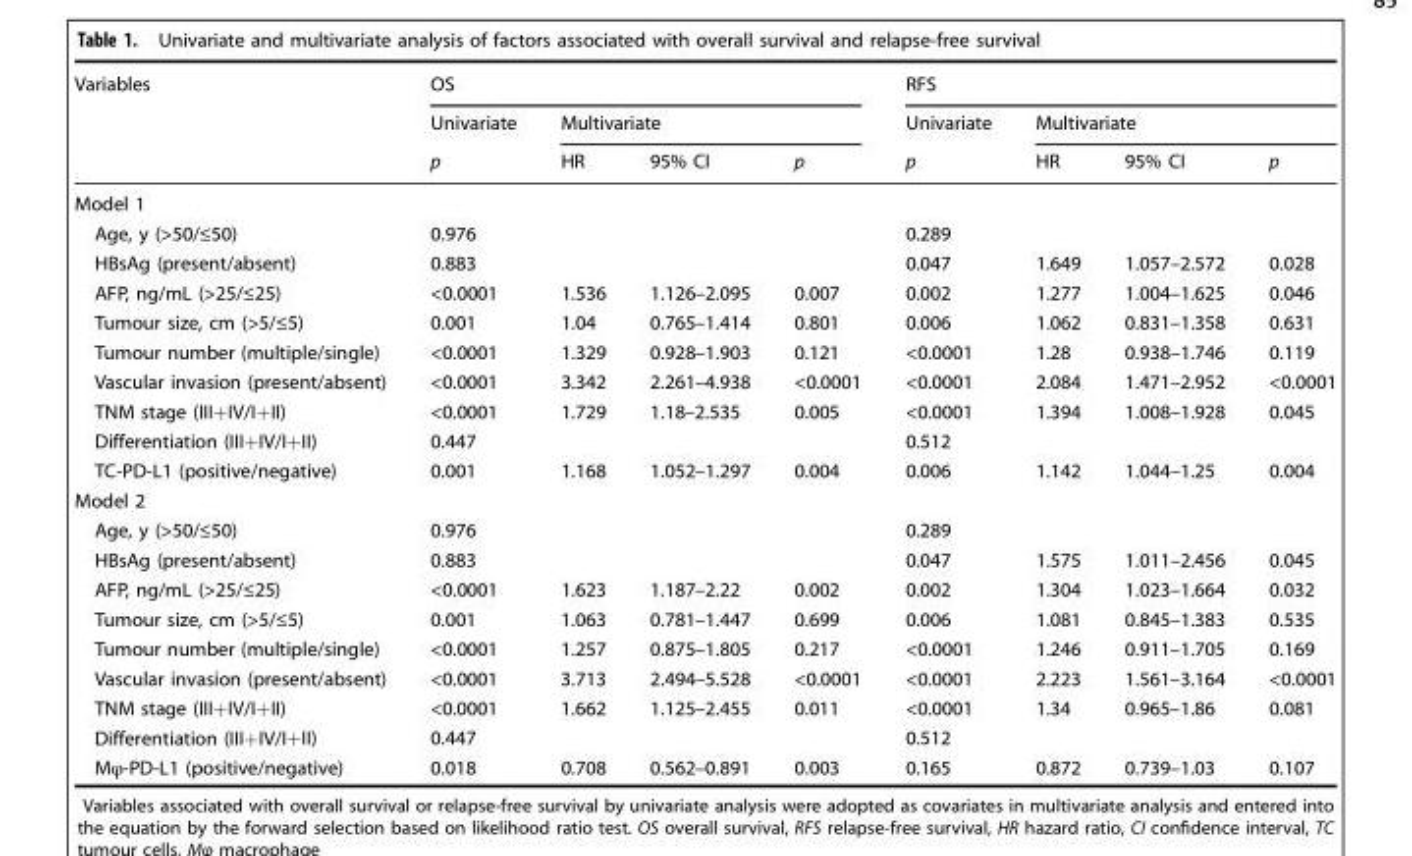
<table><thead><tr><td rowspan="3">Variables</td><td colspan="4">OS</td><td colspan="4">RFS</td></tr><tr><td rowspan="2">Univariate p</td><td colspan="3">Multivariate</td><td rowspan="2">Univariate p</td><td colspan="3">Multivariate</td></tr><tr><td>HR</td><td>95% CI</td><td>p</td><td>HR</td><td>95% CI</td><td>p</td></tr></thead><tbody><tr><td colspan="9">Model 1</td></tr><tr><td>Age, y (&gt;50/≤50)</td><td>0.976</td><td></td><td></td><td></td><td>0.289</td><td></td><td></td><td></td></tr><tr><td>HBsAg (present/absent)</td><td>0.883</td><td></td><td></td><td></td><td>0.047</td><td>1.649</td><td>1.057–2.572</td><td>0.028</td></tr><tr><td>AFP, ng/mL (&gt;25/≤25)</td><td>&lt;0.0001</td><td>1.536</td><td>1.126–2.095</td><td>0.007</td><td>0.002</td><td>1.277</td><td>1.004–1.625</td><td>0.046</td></tr><tr><td>Tumour size, cm (&gt;5/≤5)</td><td>0.001</td><td>1.04</td><td>0.765–1.414</td><td>0.801</td><td>0.006</td><td>1.062</td><td>0.831–1.358</td><td>0.631</td></tr><tr><td>Tumour number (multiple/single)</td><td>&lt;0.0001</td><td>1.329</td><td>0.928–1.903</td><td>0.121</td><td>&lt;0.0001</td><td>1.28</td><td>0.938–1.746</td><td>0.119</td></tr><tr><td>Vascular invasion (present/absent)</td><td>&lt;0.0001</td><td>3.342</td><td>2.261–4.938</td><td>&lt;0.0001</td><td>&lt;0.0001</td><td>2.084</td><td>1.471–2.952</td><td>&lt;0.0001</td></tr><tr><td>TNM stage (III+IV/I+II)</td><td>&lt;0.0001</td><td>1.729</td><td>1.18–2.535</td><td>0.005</td><td>&lt;0.0001</td><td>1.394</td><td>1.008–1.928</td><td>0.045</td></tr><tr><td>Differentiation (III+IV/I+II)</td><td>0.447</td><td></td><td></td><td></td><td>0.512</td><td></td><td></td><td></td></tr><tr><td>TC-PD-L1 (positive/negative)</td><td>0.001</td><td>1.168</td><td>1.052–1.297</td><td>0.004</td><td>0.006</td><td>1.142</td><td>1.044–1.25</td><td>0.004</td></tr><tr><td colspan="9">Model 2</td></tr><tr><td>Age, y (&gt;50/≤50)</td><td>0.976</td><td></td><td></td><td></td><td>0.289</td><td></td><td></td><td></td></tr><tr><td>HBsAg (present/absent)</td><td>0.883</td><td></td><td></td><td></td><td>0.047</td><td>1.575</td><td>1.011–2.456</td><td>0.045</td></tr><tr><td>AFP, ng/mL (&gt;25/≤25)</td><td>&lt;0.0001</td><td>1.623</td><td>1.187–2.22</td><td>0.002</td><td>0.002</td><td>1.304</td><td>1.023–1.664</td><td>0.032</td></tr><tr><td>Tumour size, cm (&gt;5/≤5)</td><td>0.001</td><td>1.063</td><td>0.781–1.447</td><td>0.699</td><td>0.006</td><td>1.081</td><td>0.845–1.383</td><td>0.535</td></tr><tr><td>Tumour number (multiple/single)</td><td>&lt;0.0001</td><td>1.257</td><td>0.875–1.805</td><td>0.217</td><td>&lt;0.0001</td><td>1.246</td><td>0.911–1.705</td><td>0.169</td></tr><tr><td>Vascular invasion (present/absent)</td><td>&lt;0.0001</td><td>3.713</td><td>2.494–5.528</td><td>&lt;0.0001</td><td>&lt;0.0001</td><td>2.223</td><td>1.561–3.164</td><td>&lt;0.0001</td></tr><tr><td>TNM stage (III+IV/I+II)</td><td>&lt;0.0001</td><td>1.662</td><td>1.125–2.455</td><td>0.011</td><td>&lt;0.0001</td><td>1.34</td><td>0.965–1.86</td><td>0.081</td></tr><tr><td>Differentiation (III+IV/I+II)</td><td>0.447</td><td></td><td></td><td></td><td>0.512</td><td></td><td></td><td></td></tr><tr><td>Mφ-PD-L1 (positive/negative)</td><td>0.018</td><td>0.708</td><td>0.562–0.891</td><td>0.003</td><td>0.165</td><td>0.872</td><td>0.739–1.03</td><td>0.107</td></tr></tbody></table>